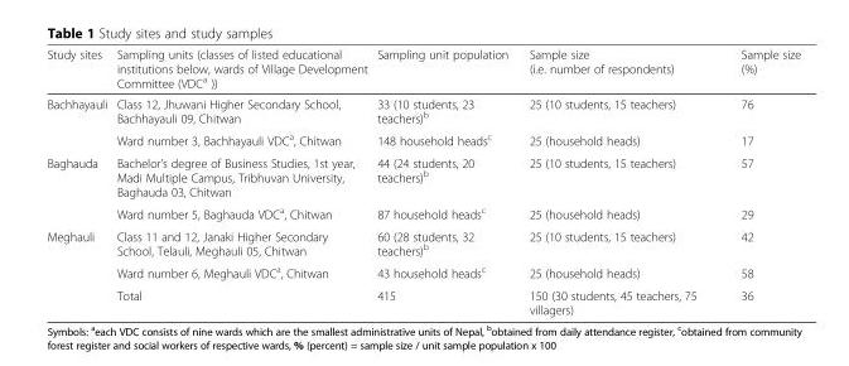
<table><thead><tr><td>Study sites</td><td>Sampling units (classes of listed educational institutions below, wards of Village Development Committee (VDC<sup>a</sup> ))</td><td>Sampling unit population</td><td>Sample size (i.e. number of respondents)</td><td>Sample size (%)</td></tr></thead><tbody><tr><td rowspan="2">Bachhayauli</td><td>Class 12, Jhuwani Higher Secondary School, Bachhayauli 09, Chitwan</td><td>33 (10 students, 23 teachers)<sup>b</sup></td><td>25 (10 students, 15 teachers)</td><td>76</td></tr><tr><td>Ward number 3, Bachhayauli VDC<sup>a</sup>, Chitwan</td><td>148 household heads<sup>c</sup></td><td>25 (household heads)</td><td>17</td></tr><tr><td rowspan="2">Baghauda</td><td>Bachelor’s degree of Business Studies, 1st year, Madi Multiple Campus, Tribhuvan University, Baghauda 03, Chitwan</td><td>44 (24 students, 20 teachers)<sup>b</sup></td><td>25 (10 students, 15 teachers)</td><td>57</td></tr><tr><td>Ward number 5, Baghauda VDC<sup>a</sup>, Chitwan</td><td>87 household heads<sup>c</sup></td><td>25 (household heads)</td><td>29</td></tr><tr><td rowspan="3">Meghauli</td><td>Class 11 and 12, Janaki Higher Secondary School, Telauli, Meghauli 05, Chitwan</td><td>60 (28 students, 32 teachers)<sup>b</sup></td><td>25 (10 students, 15 teachers)</td><td>42</td></tr><tr><td>Ward number 6, Meghauli VDC<sup>a</sup>, Chitwan</td><td>43 household heads<sup>c</sup></td><td>25 (household heads)</td><td>58</td></tr><tr><td>Total</td><td>415</td><td>150 (30 students, 45 teachers, 75 villagers)</td><td>36</td></tr></tbody></table>